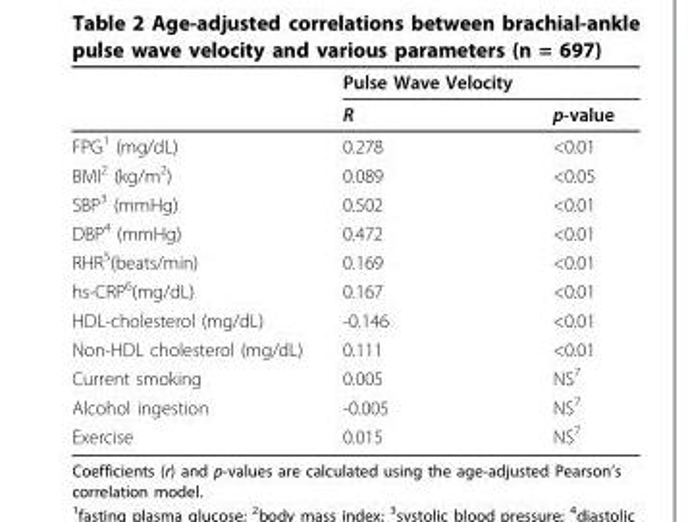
<table><thead><tr><td rowspan="2"></td><td rowspan="2">Pulse Wave Velocity R</td><td rowspan="2">p-value</td></tr><tr></tr></thead><tbody><tr><td>FPG<sup>1</sup> (mg/dL)</td><td>0.278</td><td>&lt;0.01</td></tr><tr><td>BMI<sup>2</sup> (kg/m<sup>2</sup>)</td><td>0.089</td><td>&lt;0.05</td></tr><tr><td>SBP<sup>3</sup> (mmHg)</td><td>0.502</td><td>&lt;0.01</td></tr><tr><td>DBP<sup>4</sup> (mmHg)</td><td>0.472</td><td>&lt;0.01</td></tr><tr><td>RHR<sup>5</sup>(beats/min)</td><td>0.169</td><td>&lt;0.01</td></tr><tr><td>hs-CRP<sup>6</sup>(mg/dL)</td><td>0.167</td><td>&lt;0.01</td></tr><tr><td>HDL-cholesterol (mg/dL)</td><td>-0.146</td><td>&lt;0.01</td></tr><tr><td>Non-HDL cholesterol (mg/dL)</td><td>0.111</td><td>&lt;0.01</td></tr><tr><td>Current smoking</td><td>0.005</td><td>NS<sup>7</sup></td></tr><tr><td>Alcohol ingestion</td><td>-0.005</td><td>NS<sup>7</sup></td></tr><tr><td>Exercise</td><td>0.015</td><td>NS<sup>7</sup></td></tr></tbody></table>